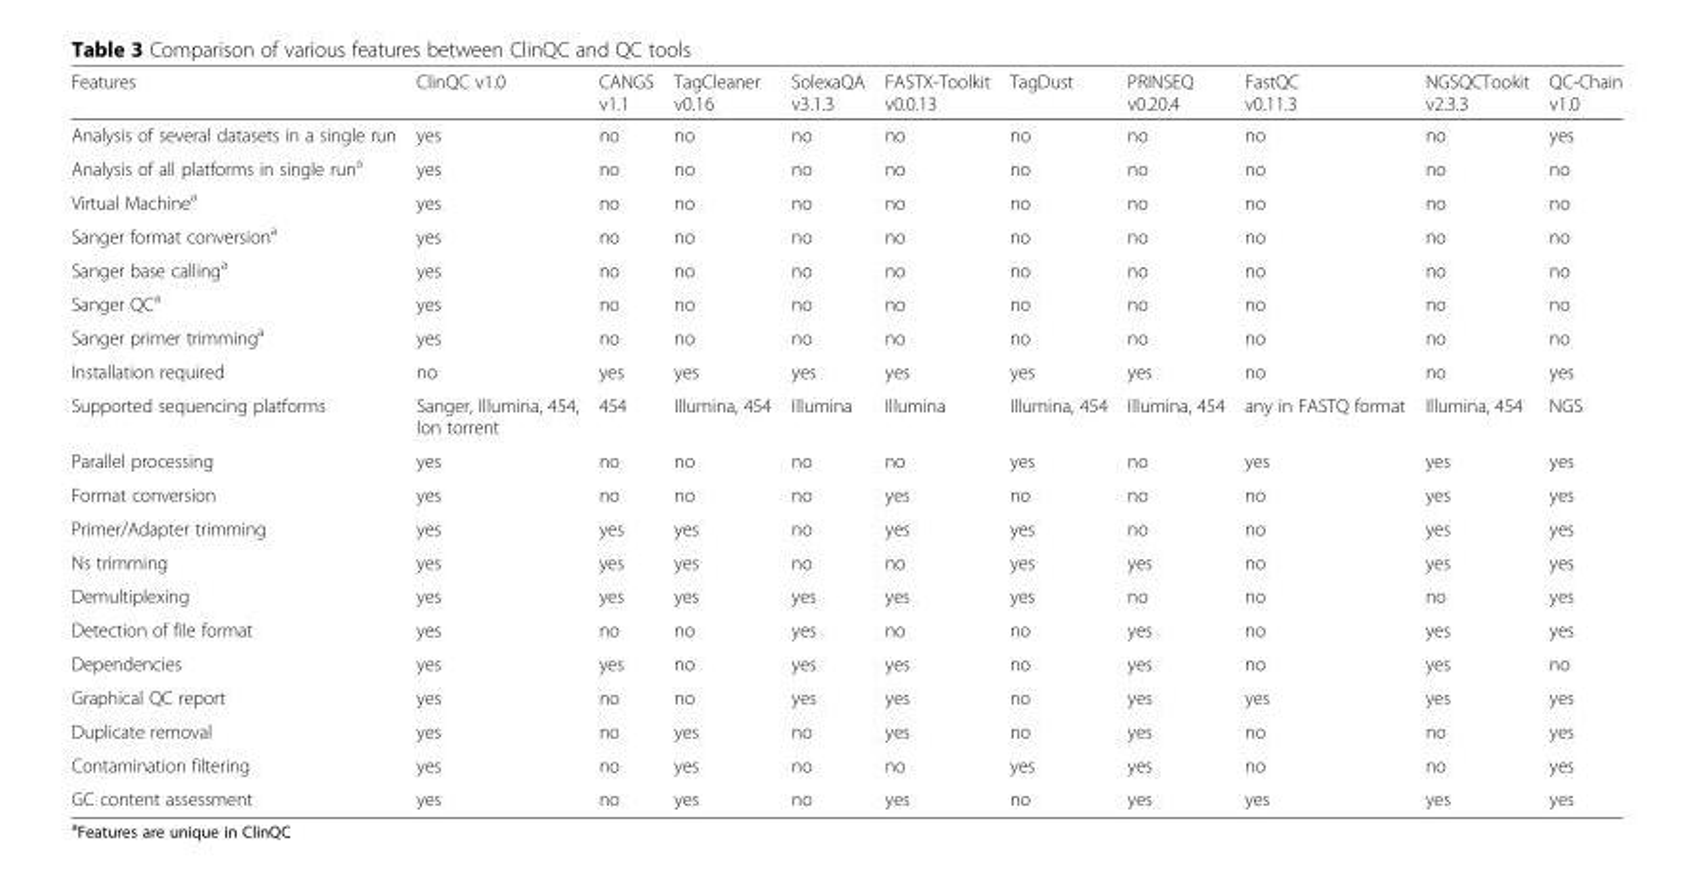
<table><thead><tr><td>Features</td><td>ClinQC v1.0</td><td>CANGS v1.1</td><td>TagCleaner v0.16</td><td>SolexaQA v3.1.3</td><td>FASTX-Toolkit v0.0.13</td><td>TagDust</td><td>PRINSEQ v0.20.4</td><td>FastQC v0.11.3</td><td>NGSQCTookit v2.3.3</td><td>QC-Chain v1.0</td></tr></thead><tbody><tr><td>Analysis of several datasets in a single run</td><td>yes</td><td>no</td><td>no</td><td>no</td><td>no</td><td>no</td><td>no</td><td>no</td><td>no</td><td>yes</td></tr><tr><td>Analysis of all platforms in single run<sup>a</sup></td><td>yes</td><td>no</td><td>no</td><td>no</td><td>no</td><td>no</td><td>no</td><td>no</td><td>no</td><td>no</td></tr><tr><td>Virtual Machine<sup>a</sup></td><td>yes</td><td>no</td><td>no</td><td>no</td><td>no</td><td>no</td><td>no</td><td>no</td><td>no</td><td>no</td></tr><tr><td>Sanger format conversion<sup>a</sup></td><td>yes</td><td>no</td><td>no</td><td>no</td><td>no</td><td>no</td><td>no</td><td>no</td><td>no</td><td>no</td></tr><tr><td>Sanger base calling<sup>a</sup></td><td>yes</td><td>no</td><td>no</td><td>no</td><td>no</td><td>no</td><td>no</td><td>no</td><td>no</td><td>no</td></tr><tr><td>Sanger QC<sup>a</sup></td><td>yes</td><td>no</td><td>no</td><td>no</td><td>no</td><td>no</td><td>no</td><td>no</td><td>no</td><td>no</td></tr><tr><td>Sanger primer trimming<sup>a</sup></td><td>yes</td><td>no</td><td>no</td><td>no</td><td>no</td><td>no</td><td>no</td><td>no</td><td>no</td><td>no</td></tr><tr><td>Installation required</td><td>no</td><td>yes</td><td>yes</td><td>yes</td><td>yes</td><td>yes</td><td>yes</td><td>no</td><td>no</td><td>yes</td></tr><tr><td>Supported sequencing platforms</td><td>Sanger, Illumina, 454, Ion torrent</td><td>454</td><td>Illumina, 454</td><td>Illumina</td><td>Illumina</td><td>Illumina, 454</td><td>Illumina, 454</td><td>any in FASTQ format</td><td>Illumina, 454</td><td>NGS</td></tr><tr><td>Parallel processing</td><td>yes</td><td>no</td><td>no</td><td>no</td><td>no</td><td>yes</td><td>no</td><td>yes</td><td>yes</td><td>yes</td></tr><tr><td>Format conversion</td><td>yes</td><td>no</td><td>no</td><td>no</td><td>yes</td><td>no</td><td>no</td><td>no</td><td>yes</td><td>yes</td></tr><tr><td>Primer/Adapter trimming</td><td>yes</td><td>yes</td><td>yes</td><td>no</td><td>yes</td><td>yes</td><td>no</td><td>no</td><td>yes</td><td>yes</td></tr><tr><td>Ns trimming</td><td>yes</td><td>yes</td><td>yes</td><td>no</td><td>no</td><td>yes</td><td>yes</td><td>no</td><td>yes</td><td>yes</td></tr><tr><td>Demultiplexing</td><td>yes</td><td>yes</td><td>yes</td><td>yes</td><td>yes</td><td>yes</td><td>no</td><td>no</td><td>no</td><td>yes</td></tr><tr><td>Detection of file format</td><td>yes</td><td>no</td><td>no</td><td>yes</td><td>no</td><td>no</td><td>yes</td><td>no</td><td>yes</td><td>yes</td></tr><tr><td>Dependencies</td><td>yes</td><td>yes</td><td>no</td><td>yes</td><td>yes</td><td>no</td><td>yes</td><td>no</td><td>yes</td><td>no</td></tr><tr><td>Graphical QC report</td><td>yes</td><td>no</td><td>no</td><td>yes</td><td>yes</td><td>no</td><td>yes</td><td>yes</td><td>yes</td><td>yes</td></tr><tr><td>Duplicate removal</td><td>yes</td><td>no</td><td>yes</td><td>no</td><td>yes</td><td>no</td><td>yes</td><td>no</td><td>no</td><td>yes</td></tr><tr><td>Contamination filtering</td><td>yes</td><td>no</td><td>yes</td><td>no</td><td>no</td><td>yes</td><td>yes</td><td>no</td><td>no</td><td>yes</td></tr><tr><td>GC content assessment</td><td>yes</td><td>no</td><td>yes</td><td>no</td><td>yes</td><td>no</td><td>yes</td><td>yes</td><td>yes</td><td>yes</td></tr></tbody></table>